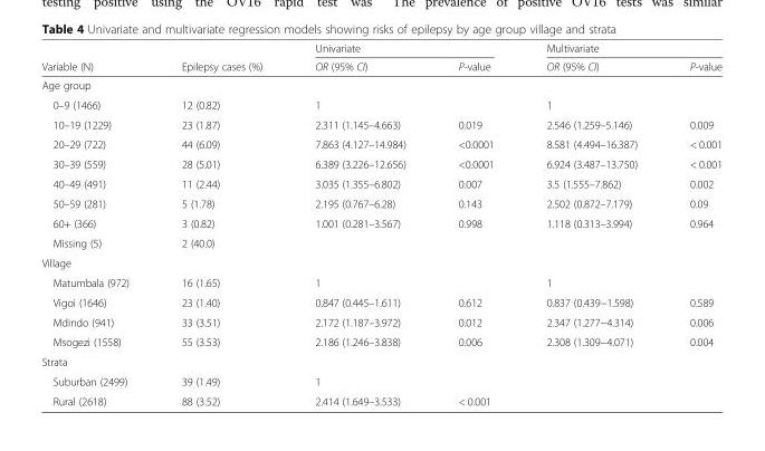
<table><thead><tr><td rowspan="2">Variable (N)</td><td rowspan="2">Epilepsy cases (%)</td><td colspan="2">Univariate</td><td colspan="2">Multivariate</td></tr><tr><td>OR (95% CI)</td><td>P-value</td><td>OR (95% CI)</td><td>P-value</td></tr></thead><tbody><tr><td colspan="6">Age group</td></tr><tr><td>0–9 (1466)</td><td>12 (0.82)</td><td>1</td><td></td><td>1</td><td></td></tr><tr><td>10–19 (1229)</td><td>23 (1.87)</td><td>2.311 (1.145–4.663)</td><td>0.019</td><td>2.546 (1.259–5.146)</td><td>0.009</td></tr><tr><td>20–29 (722)</td><td>44 (6.09)</td><td>7.863 (4.127–14.984)</td><td>&lt;0.0001</td><td>8.581 (4.494–16.387)</td><td>&lt; 0.001</td></tr><tr><td>30–39 (559)</td><td>28 (5.01)</td><td>6.389 (3.226–12.656)</td><td>&lt;0.0001</td><td>6.924 (3.487–13.750)</td><td>&lt; 0.001</td></tr><tr><td>40–49 (491)</td><td>11 (2.44)</td><td>3.035 (1.355–6.802)</td><td>0.007</td><td>3.5 (1.555–7.862)</td><td>0.002</td></tr><tr><td>50–59 (281)</td><td>5 (1.78)</td><td>2.195 (0.767–6.28)</td><td>0.143</td><td>2.502 (0.872–7.179)</td><td>0.09</td></tr><tr><td>60+ (366)</td><td>3 (0.82)</td><td>1.001 (0.281–3.567)</td><td>0.998</td><td>1.118 (0.313–3.994)</td><td>0.964</td></tr><tr><td>Missing (5)</td><td>2 (40.0)</td><td></td><td></td><td></td><td></td></tr><tr><td colspan="6">Village</td></tr><tr><td>Matumbala (972)</td><td>16 (1.65)</td><td>1</td><td></td><td>1</td><td></td></tr><tr><td>Vigoi (1646)</td><td>23 (1.40)</td><td>0.847 (0.445–1.611)</td><td>0.612</td><td>0.837 (0.439−1.598)</td><td>0.589</td></tr><tr><td>Mdindo (941)</td><td>33 (3.51)</td><td>2.172 (1.187–3.972)</td><td>0.012</td><td>2.347 (1.277−4.314)</td><td>0.006</td></tr><tr><td>Msogezi (1558)</td><td>55 (3.53)</td><td>2.186 (1.246–3.838)</td><td>0.006</td><td>2.308 (1.309−4.071)</td><td>0.004</td></tr><tr><td colspan="6">Strata</td></tr><tr><td>Suburban (2499)</td><td>39 (1.49)</td><td>1</td><td></td><td></td><td></td></tr><tr><td>Rural (2618)</td><td>88 (3.52)</td><td>2.414 (1.649–3.533)</td><td>&lt; 0.001</td><td></td><td></td></tr></tbody></table>